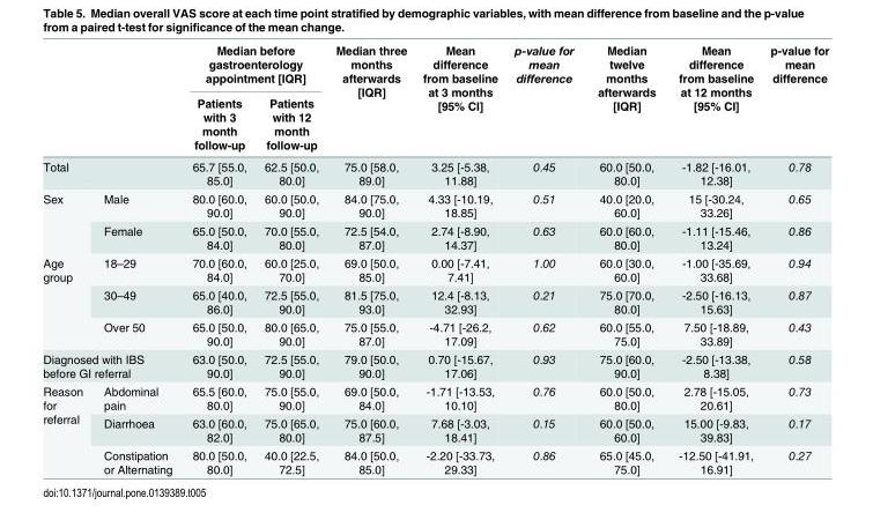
<table><thead><tr><td rowspan="2"></td><td rowspan="2"></td><td colspan="2">Median before gastroenterology appointment [IQR]</td><td rowspan="2">Median three months afterwards [IQR]</td><td rowspan="2">Mean difference from baseline at 3 months [95% CI]</td><td rowspan="2">p-value for mean difference</td><td rowspan="2">Median twelve months afterwards [IQR]</td><td rowspan="2">Mean difference from baseline at 12 months [95% CI]</td><td rowspan="2">p-value for mean difference</td></tr><tr><td>Patients with 3 month follow-up</td><td>Patients with 12 month follow-up</td></tr></thead><tbody><tr><td colspan="2">Total</td><td>65.7 [55.0, 85.0]</td><td>62.5 [50.0, 80.0]</td><td>75.0 [58.0, 89.0]</td><td>3.25 [-5.38, 11.88]</td><td>0.45</td><td>60.0 [50.0, 80.0]</td><td>-1.82 [-16.01, 12.38]</td><td>0.78</td></tr><tr><td rowspan="2">Sex</td><td>Male</td><td>80.0 [60.0, 90.0]</td><td>60.0 [50.0, 90.0]</td><td>84.0 [75.0, 90.0]</td><td>4.33 [-10.19, 18.85]</td><td>0.51</td><td>40.0 [20.0, 60.0]</td><td>15 [-30.24, 33.26]</td><td>0.65</td></tr><tr><td>Female</td><td>65.0 [50.0, 84.0]</td><td>70.0 [55.0, 80.0]</td><td>72.5 [54.0, 87.0]</td><td>2.74 [-8.90, 14.37]</td><td>0.63</td><td>60.0 [60.0, 80.0]</td><td>-1.11 [-15.46, 13.24]</td><td>0.86</td></tr><tr><td rowspan="3">Age group</td><td>18–29</td><td>70.0 [60.0, 84.0]</td><td>60.0 [25.0, 70.0]</td><td>69.0 [50.0, 85.0]</td><td>0.00 [-7.41, 7.41]</td><td>1.00</td><td>60.0 [30.0, 60.0]</td><td>-1.00 [-35.69, 33.68]</td><td>0.94</td></tr><tr><td>30–49</td><td>65.0 [40.0, 86.0]</td><td>72.5 [55.0, 90.0]</td><td>81.5 [75.0, 93.0]</td><td>12.4 [-8.13, 32.93]</td><td>0.21</td><td>75.0 [70.0, 80.0]</td><td>-2.50 [-16.13, 15.63]</td><td>0.87</td></tr><tr><td>Over 50</td><td>65.0 [50.0, 90.0]</td><td>80.0 [65.0, 90.0]</td><td>75.0 [55.0, 87.0]</td><td>-4.71 [-26.2, 17.09]</td><td>0.62</td><td>60.0 [55.0, 75.0]</td><td>7.50 [-18.89, 33.89]</td><td>0.43</td></tr><tr><td colspan="2">Diagnosed with IBS before GI referral</td><td>63.0 [50.0, 90.0]</td><td>72.5 [55.0, 90.0]</td><td>79.0 [50.0, 90.0]</td><td>0.70 [-15.67, 17.06]</td><td>0.93</td><td>75.0 [60.0, 90.0]</td><td>-2.50 [-13.38, 8.38]</td><td>0.58</td></tr><tr><td rowspan="3">Reason for referral</td><td>Abdominal pain</td><td>65.5 [60.0, 80.0]</td><td>75.0 [55.0, 90.0]</td><td>69.0 [50.0, 84.0]</td><td>-1.71 [-13.53, 10.10]</td><td>0.76</td><td>60.0 [50.0, 80.0]</td><td>2.78 [-15.05, 20.61]</td><td>0.73</td></tr><tr><td>Diarrhoea</td><td>63.0 [60.0, 82.0]</td><td>75.0 [65.0, 80.0]</td><td>75.0 [60.0, 87.5]</td><td>7.68 [-3.03, 18.41]</td><td>0.15</td><td>60.0 [50.0, 60.0]</td><td>15.00 [-9.83, 39.83]</td><td>0.17</td></tr><tr><td>Constipation or Alternating</td><td>80.0 [50.0, 80.0]</td><td>40.0 [22.5, 72.5]</td><td>84.0 [50.0, 85.0]</td><td>-2.20 [-33.73, 29.33]</td><td>0.86</td><td>65.0 [45.0, 75.0]</td><td>-12.50 [-41.91, 16.91]</td><td>0.27</td></tr></tbody></table>